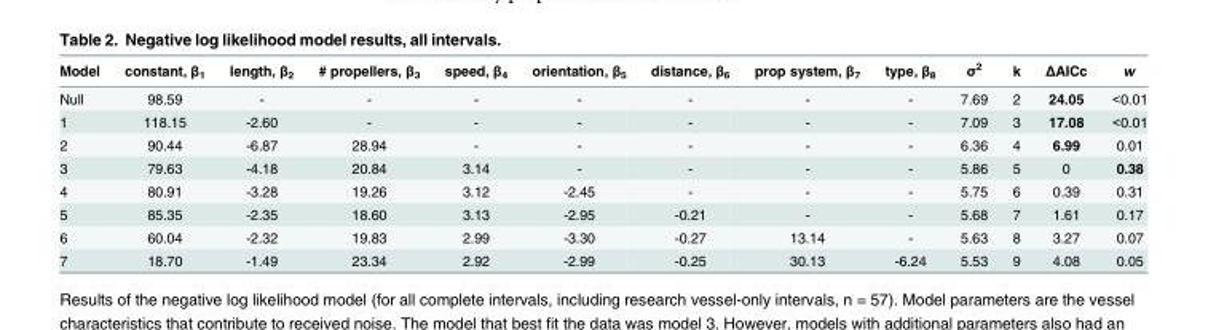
<table><thead><tr><td>Model</td><td>constant, β<sub>1</sub></td><td>length, β<sub>2</sub></td><td># propellers, β<sub>3</sub></td><td>speed, β<sub>4</sub></td><td>orientation, β<sub>5</sub></td><td>distance, β<sub>6</sub></td><td>prop system, β<sub>7</sub></td><td>type, β<sub>8</sub></td><td>σ<sup>2</sup></td><td>k</td><td>ΔAICc</td><td>w</td></tr></thead><tbody><tr><td>Null</td><td>98.59</td><td>-</td><td>-</td><td>-</td><td>-</td><td>-</td><td>-</td><td>-</td><td>7.69</td><td>2</td><td>24.05</td><td>&lt;0.01</td></tr><tr><td>1</td><td>118.15</td><td>-2.60</td><td>-</td><td>-</td><td>-</td><td>-</td><td>-</td><td>-</td><td>7.09</td><td>3</td><td>17.08</td><td>&lt;0.01</td></tr><tr><td>2</td><td>90.44</td><td>-6.87</td><td>28.94</td><td>-</td><td>-</td><td>-</td><td>-</td><td>-</td><td>6.36</td><td>4</td><td>6.99</td><td>0.01</td></tr><tr><td>3</td><td>79.63</td><td>-4.18</td><td>20.84</td><td>3.14</td><td>-</td><td>-</td><td>-</td><td>-</td><td>5.86</td><td>5</td><td>0</td><td>0.38</td></tr><tr><td>4</td><td>80.91</td><td>-3.28</td><td>19.26</td><td>3.12</td><td>-2.45</td><td>-</td><td>-</td><td>-</td><td>5.75</td><td>6</td><td>0.39</td><td>0.31</td></tr><tr><td>5</td><td>85.35</td><td>-2.35</td><td>18.60</td><td>3.13</td><td>-2.95</td><td>-0.21</td><td>-</td><td>-</td><td>5.68</td><td>7</td><td>1.61</td><td>0.17</td></tr><tr><td>6</td><td>60.04</td><td>-2.32</td><td>19.83</td><td>2.99</td><td>-3.30</td><td>-0.27</td><td>13.14</td><td>-</td><td>5.63</td><td>8</td><td>3.27</td><td>0.07</td></tr><tr><td>7</td><td>18.70</td><td>-1.49</td><td>23.34</td><td>2.92</td><td>-2.99</td><td>-0.25</td><td>30.13</td><td>-6.24</td><td>5.53</td><td>9</td><td>4.08</td><td>0.05</td></tr></tbody></table>